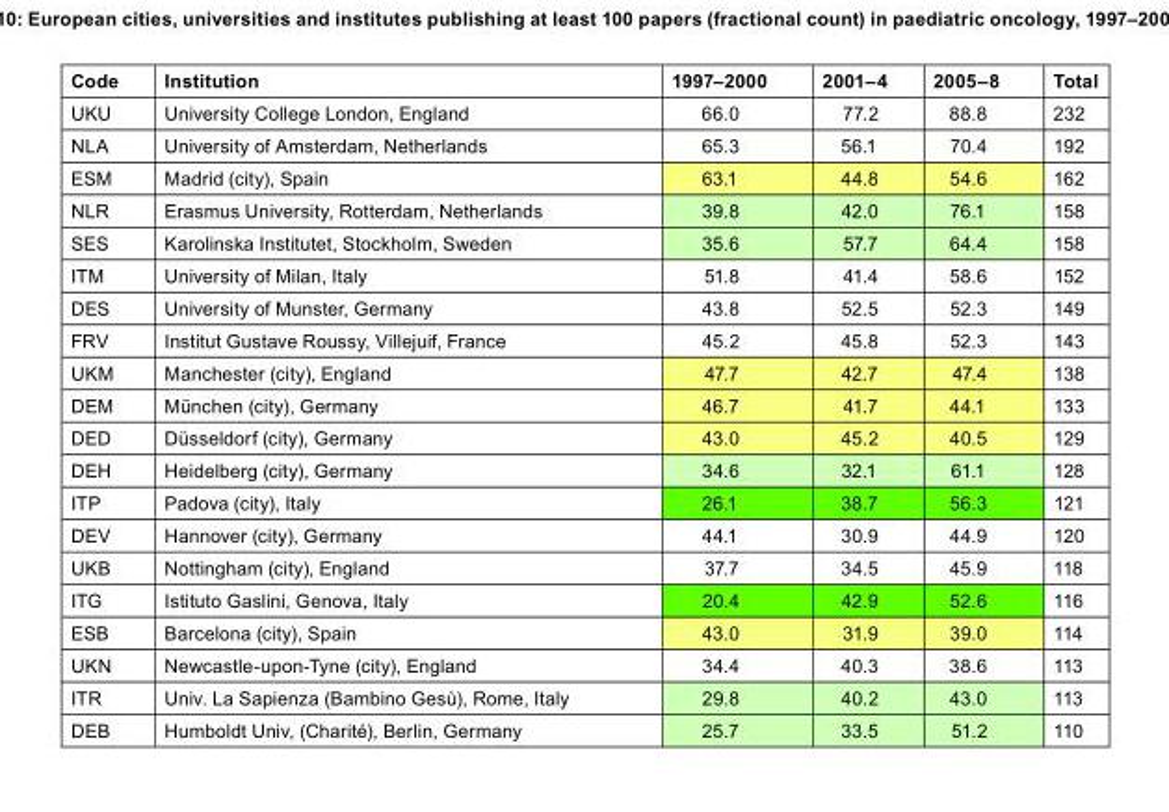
<table><thead><tr><td>Code</td><td>Institution</td><td>1997–2000</td><td>2001–4</td><td>2005–8</td><td>Total</td></tr></thead><tbody><tr><td>UKU</td><td>University College London, England</td><td>66.0</td><td>77.2</td><td>88.8</td><td>232</td></tr><tr><td>NLA</td><td>University of Amsterdam, Netherlands</td><td>65.3</td><td>56.1</td><td>70.4</td><td>192</td></tr><tr><td>ESM</td><td>Madrid (city), Spain</td><td>63.1</td><td>44.8</td><td>54.6</td><td>162</td></tr><tr><td>NLR</td><td>Erasmus University, Rotterdam, Netherlands</td><td>39.8</td><td>42.0</td><td>76.1</td><td>158</td></tr><tr><td>SES</td><td>Karolinska Institutet, Stockholm, Sweden</td><td>35.6</td><td>57.7</td><td>64.4</td><td>158</td></tr><tr><td>ITM</td><td>University of Milan, Italy</td><td>51.8</td><td>41.4</td><td>58.6</td><td>152</td></tr><tr><td>DES</td><td>University of Munster, Germany</td><td>43.8</td><td>52.5</td><td>52.3</td><td>149</td></tr><tr><td>FRV</td><td>Institut Gustave Roussy, Villejuif, France</td><td>45.2</td><td>45.8</td><td>52.3</td><td>143</td></tr><tr><td>UKM</td><td>Manchester (city), England</td><td>47.7</td><td>42.7</td><td>47.4</td><td>138</td></tr><tr><td>DEM</td><td>München (city), Germany</td><td>46.7</td><td>41.7</td><td>44.1</td><td>133</td></tr><tr><td>DED</td><td>Düsseldorf (city), Germany</td><td>43.0</td><td>45.2</td><td>40.5</td><td>129</td></tr><tr><td>DEH</td><td>Heidelberg (city), Germany</td><td>34.6</td><td>32.1</td><td>61.1</td><td>128</td></tr><tr><td>ITP</td><td>Padova (city), Italy</td><td>26.1</td><td>38.7</td><td>56.3</td><td>121</td></tr><tr><td>DEV</td><td>Hannover (city), Germany</td><td>44.1</td><td>30.9</td><td>44.9</td><td>120</td></tr><tr><td>UKB</td><td>Nottingham (city), England</td><td>37.7</td><td>34.5</td><td>45.9</td><td>118</td></tr><tr><td>ITG</td><td>Istituto Gaslini, Genova, Italy</td><td>20.4</td><td>42.9</td><td>52.6</td><td>116</td></tr><tr><td>ESB</td><td>Barcelona (city), Spain</td><td>43.0</td><td>31.9</td><td>39.0</td><td>114</td></tr><tr><td>UKN</td><td>Newcastle-upon-Tyne (city), England</td><td>34.4</td><td>40.3</td><td>38.6</td><td>113</td></tr><tr><td>ITR</td><td>Univ. La Sapienza (Bambino Gesù), Rome, Italy</td><td>29.8</td><td>40.2</td><td>43.0</td><td>113</td></tr><tr><td>DEB</td><td>Humboldt Univ, (Charité), Berlin, Germany</td><td>25.7</td><td>33.5</td><td>51.2</td><td>110</td></tr></tbody></table>